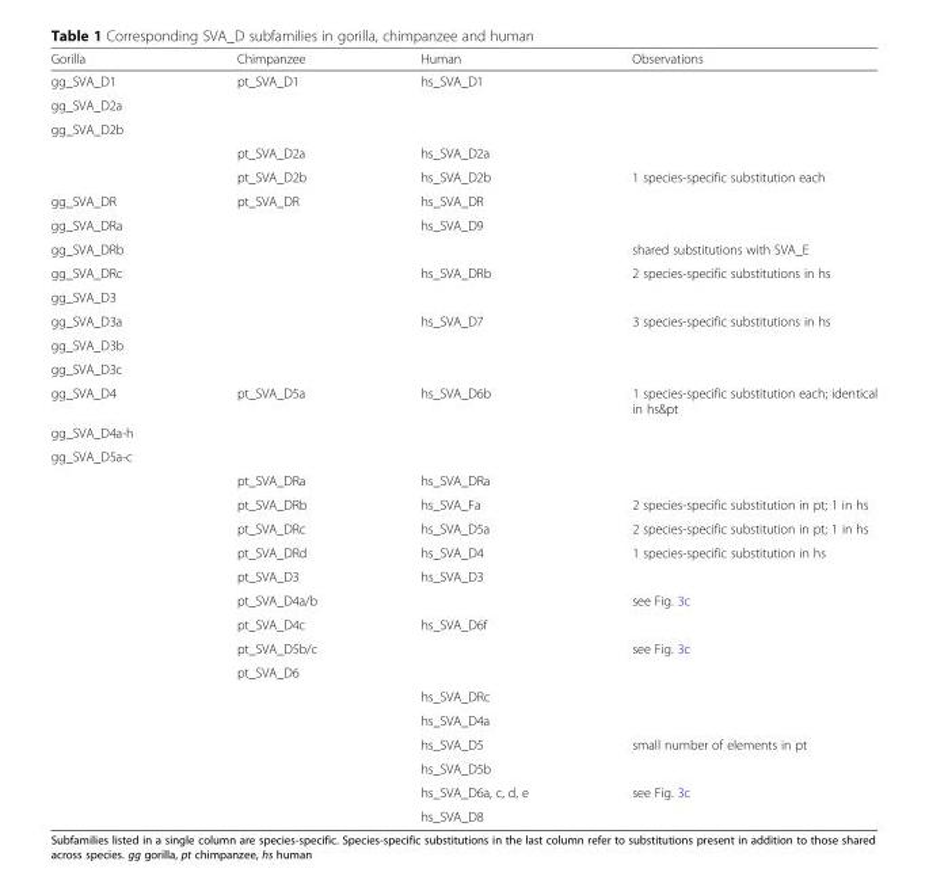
<table><thead><tr><td>Gorilla</td><td>Chimpanzee</td><td>Human</td><td>Observations</td></tr></thead><tbody><tr><td>gg_SVA_D1</td><td>pt_SVA_D1</td><td>hs_SVA_D1</td><td></td></tr><tr><td colspan="4">gg_SVA_D2a</td></tr><tr><td colspan="4">gg_SVA_D2b</td></tr><tr><td></td><td>pt_SVA_D2a</td><td>hs_SVA_D2a</td><td></td></tr><tr><td></td><td>pt_SVA_D2b</td><td>hs_SVA_D2b</td><td>1 species-specific substitution each</td></tr><tr><td>gg_SVA_DR</td><td>pt_SVA_DR</td><td>hs_SVA_DR</td><td></td></tr><tr><td>gg_SVA_DRa</td><td></td><td>hs_SVA_D9</td><td></td></tr><tr><td>gg_SVA_DRb</td><td></td><td></td><td>shared substitutions with SVA_E</td></tr><tr><td>gg_SVA_DRc</td><td></td><td>hs_SVA_DRb</td><td>2 species-specific substitutions in hs</td></tr><tr><td colspan="4">gg_SVA_D3</td></tr><tr><td>gg_SVA_D3a</td><td></td><td>hs_SVA_D7</td><td>3 species-specific substitutions in hs</td></tr><tr><td colspan="4">gg_SVA_D3b</td></tr><tr><td colspan="4">gg_SVA_D3c</td></tr><tr><td>gg_SVA_D4</td><td>pt_SVA_D5a</td><td>hs_SVA_D6b</td><td>1 species-specific substitution each; identical in hs&amp;pt</td></tr><tr><td colspan="4">gg_SVA_D4a-h</td></tr><tr><td colspan="4">gg_SVA_D5a-c</td></tr><tr><td></td><td>pt_SVA_DRa</td><td>hs_SVA_DRa</td><td></td></tr><tr><td></td><td>pt_SVA_DRb</td><td>hs_SVA_Fa</td><td>2 species-specific substitution in pt; 1 in hs</td></tr><tr><td></td><td>pt_SVA_DRc</td><td>hs_SVA_D5a</td><td>2 species-specific substitution in pt; 1 in hs</td></tr><tr><td></td><td>pt_SVA_DRd</td><td>hs_SVA_D4</td><td>1 species-specific substitution in hs</td></tr><tr><td></td><td>pt_SVA_D3</td><td>hs_SVA_D3</td><td></td></tr><tr><td></td><td>pt_SVA_D4a/b</td><td></td><td>see Fig. 3c</td></tr><tr><td></td><td>pt_SVA_D4c</td><td>hs_SVA_D6f</td><td></td></tr><tr><td></td><td>pt_SVA_D5b/c</td><td></td><td>see Fig. 3c</td></tr><tr><td></td><td>pt_SVA_D6</td><td></td><td></td></tr><tr><td></td><td></td><td>hs_SVA_DRc</td><td></td></tr><tr><td></td><td></td><td>hs_SVA_D4a</td><td></td></tr><tr><td></td><td></td><td>hs_SVA_D5</td><td>small number of elements in pt</td></tr><tr><td></td><td></td><td>hs_SVA_D5b</td><td></td></tr><tr><td></td><td></td><td>hs_SVA_D6a, c, d, e</td><td>see Fig. 3c</td></tr><tr><td></td><td></td><td>hs_SVA_D8</td><td></td></tr></tbody></table>